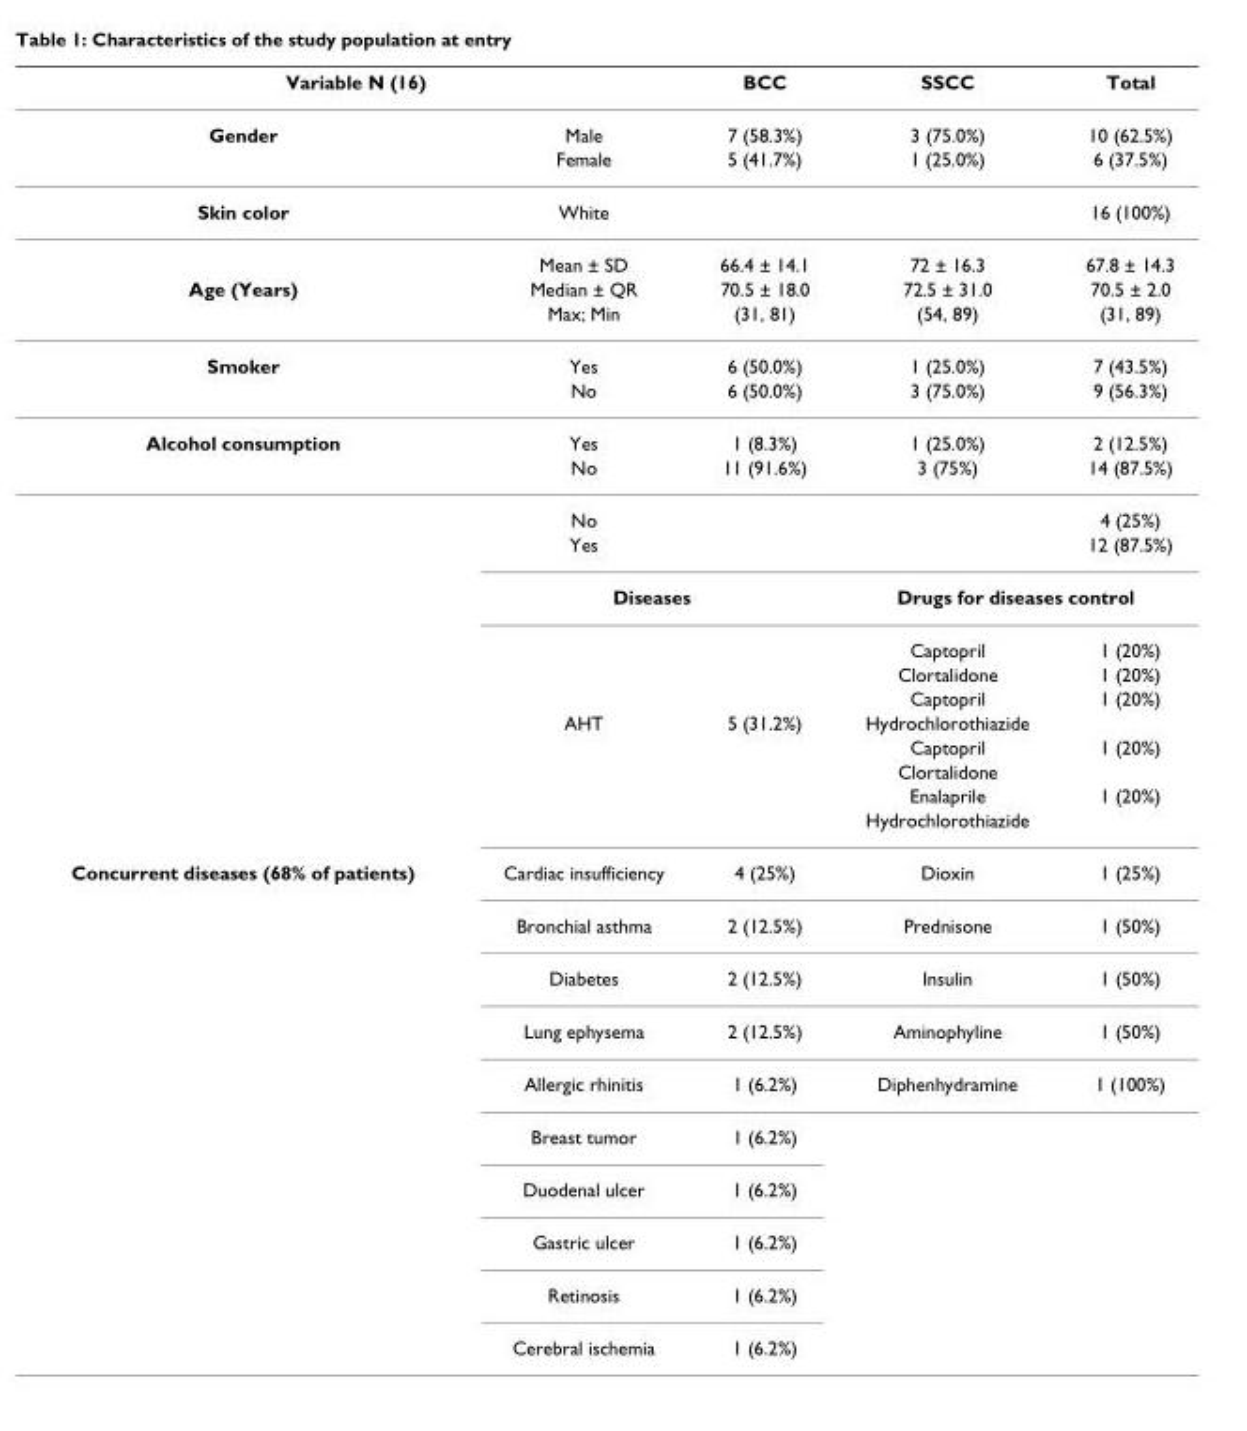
<table><thead><tr><td colspan="2">Variable N (16)</td><td rowspan="2">BCC 7 (58.3%)</td><td rowspan="2">SSCC 3 (75.0%)</td><td rowspan="2">Total 10 (62.5%)</td></tr><tr><td>Gender</td><td>Male</td></tr></thead><tbody><tr><td></td><td>Female</td><td>5 (41.7%)</td><td>1 (25.0%)</td><td>6 (37.5%)</td></tr><tr><td rowspan="2">Skin color</td><td>White</td><td></td><td></td><td>16 (100%)</td></tr><tr><td>Mean ± SD</td><td>66.4 ± 14.1</td><td>72 ± 16.3</td><td>67.8 ± 14.3</td></tr><tr><td rowspan="2">Age (Years)</td><td>Median ± QR</td><td>70.5 ± 18.0</td><td>72.5 ± 31.0</td><td>70.5 ± 2.0</td></tr><tr><td>Max; Min</td><td>(31, 81)</td><td>(54, 89)</td><td>(31, 89)</td></tr><tr><td rowspan="2">Smoker</td><td>Yes</td><td>6 (50.0%)</td><td>1 (25.0%)</td><td>7 (43.5%)</td></tr><tr><td>No</td><td>6 (50.0%)</td><td>3 (75.0%)</td><td>9 (56.3%)</td></tr><tr><td rowspan="13">Alcohol consumption</td><td>Yes</td><td>1 (8.3%)</td><td>1 (25.0%)</td><td>2 (12.5%)</td></tr><tr><td>No</td><td>11 (91.6%)</td><td>3 (75%)</td><td>14 (87.5%)</td></tr><tr><td>No</td><td></td><td></td><td>4 (25%)</td></tr><tr><td>Yes</td><td></td><td></td><td>12 (87.5%)</td></tr><tr><td colspan="2">Diseases</td><td colspan="2">Drugs for diseases control</td></tr><tr><td></td><td></td><td>Captopril</td><td>1 (20%)</td></tr><tr><td></td><td></td><td>Clortalidone</td><td>1 (20%)</td></tr><tr><td></td><td></td><td>Captopril</td><td>1 (20%)</td></tr><tr><td>AHT</td><td>5 (31.2%)</td><td>Hydrochlorothiazide</td><td></td></tr><tr><td></td><td></td><td>Captopril</td><td>1 (20%)</td></tr><tr><td></td><td></td><td>Clortalidone</td><td></td></tr><tr><td></td><td></td><td>Enalaprile</td><td>1 (20%)</td></tr><tr><td></td><td></td><td>Hydrochlorothiazide</td><td></td></tr><tr><td rowspan="10">Concurrent diseases (68% of patients)</td><td>Cardiac insufficiency</td><td>4 (25%)</td><td>Dioxin</td><td>1 (25%)</td></tr><tr><td>Bronchial asthma</td><td>2 (12.5%)</td><td>Prednisone</td><td>1 (50%)</td></tr><tr><td>Diabetes</td><td>2 (12.5%)</td><td>Insulin</td><td>1 (50%)</td></tr><tr><td>Lung ephysema</td><td>2 (12.5%)</td><td>Aminophyline</td><td>1 (50%)</td></tr><tr><td>Allergic rhinitis</td><td>1 (6.2%)</td><td>Diphenhydramine</td><td>1 (100%)</td></tr><tr><td>Breast tumor</td><td>1 (6.2%)</td><td></td><td></td></tr><tr><td>Duodenal ulcer</td><td>1 (6.2%)</td><td></td><td></td></tr><tr><td>Gastric ulcer</td><td>1 (6.2%)</td><td></td><td></td></tr><tr><td>Retinosis</td><td>1 (6.2%)</td><td></td><td></td></tr><tr><td>Cerebral ischemia</td><td>1 (6.2%)</td><td></td><td></td></tr></tbody></table>